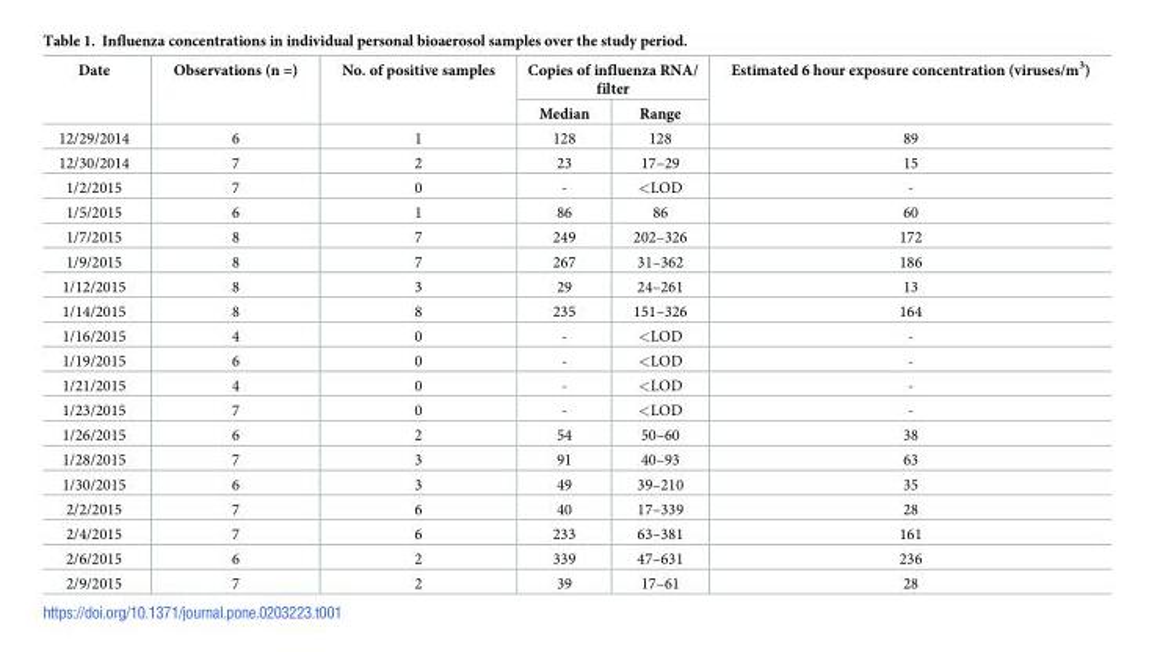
<table><thead><tr><td rowspan="2">Date</td><td rowspan="2">Observations (n =)</td><td rowspan="2">No. of positive samples</td><td colspan="2">Copies of influenza RNA/ filter</td><td rowspan="2">Estimated 6 hour exposure concentration (viruses/m<sup>3</sup>)</td></tr><tr><td>Median</td><td>Range</td></tr></thead><tbody><tr><td>12/29/2014</td><td>6</td><td>1</td><td>128</td><td>128</td><td>89</td></tr><tr><td>12/30/2014</td><td>7</td><td>2</td><td>23</td><td>17–29</td><td>15</td></tr><tr><td>1/2/2015</td><td>7</td><td>0</td><td>-</td><td>&lt;LOD</td><td>-</td></tr><tr><td>1/5/2015</td><td>6</td><td>1</td><td>86</td><td>86</td><td>60</td></tr><tr><td>1/7/2015</td><td>8</td><td>7</td><td>249</td><td>202–326</td><td>172</td></tr><tr><td>1/9/2015</td><td>8</td><td>7</td><td>267</td><td>31–362</td><td>186</td></tr><tr><td>1/12/2015</td><td>8</td><td>3</td><td>29</td><td>24–261</td><td>13</td></tr><tr><td>1/14/2015</td><td>8</td><td>8</td><td>235</td><td>151–326</td><td>164</td></tr><tr><td>1/16/2015</td><td>4</td><td>0</td><td>-</td><td>&lt;LOD</td><td>-</td></tr><tr><td>1/19/2015</td><td>6</td><td>0</td><td>-</td><td>&lt;LOD</td><td>-</td></tr><tr><td>1/21/2015</td><td>4</td><td>0</td><td>-</td><td>&lt;LOD</td><td>-</td></tr><tr><td>1/23/2015</td><td>7</td><td>0</td><td>-</td><td>&lt;LOD</td><td>-</td></tr><tr><td>1/26/2015</td><td>6</td><td>2</td><td>54</td><td>50–60</td><td>38</td></tr><tr><td>1/28/2015</td><td>7</td><td>3</td><td>91</td><td>40–93</td><td>63</td></tr><tr><td>1/30/2015</td><td>6</td><td>3</td><td>49</td><td>39–210</td><td>35</td></tr><tr><td>2/2/2015</td><td>7</td><td>6</td><td>40</td><td>17–339</td><td>28</td></tr><tr><td>2/4/2015</td><td>7</td><td>6</td><td>233</td><td>63–381</td><td>161</td></tr><tr><td>2/6/2015</td><td>6</td><td>2</td><td>339</td><td>47–631</td><td>236</td></tr><tr><td>2/9/2015</td><td>7</td><td>2</td><td>39</td><td>17–61</td><td>28</td></tr></tbody></table>